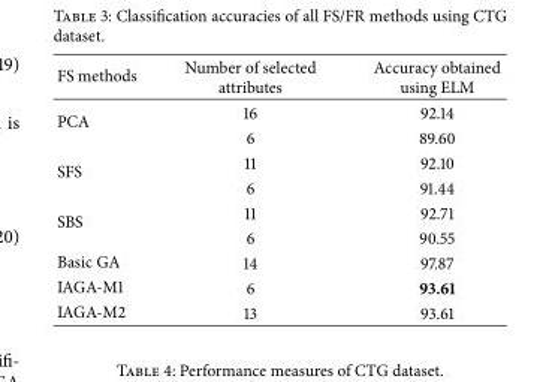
<table><thead><tr><td>FS methods</td><td>Number of selected attributes</td><td>Accuracy obtained using ELM</td></tr></thead><tbody><tr><td rowspan="2">PCA</td><td>16</td><td>92.14</td></tr><tr><td>6</td><td>89.60</td></tr><tr><td rowspan="2">SFS</td><td>11</td><td>92.10</td></tr><tr><td>6</td><td>91.44</td></tr><tr><td rowspan="2">SBS</td><td>11</td><td>92.71</td></tr><tr><td>6</td><td>90.55</td></tr><tr><td>Basic GA</td><td>14</td><td>97.87</td></tr><tr><td>IAGA-M1</td><td>6</td><td>93.61</td></tr><tr><td>IAGA-M2</td><td>13</td><td>93.61</td></tr></tbody></table>